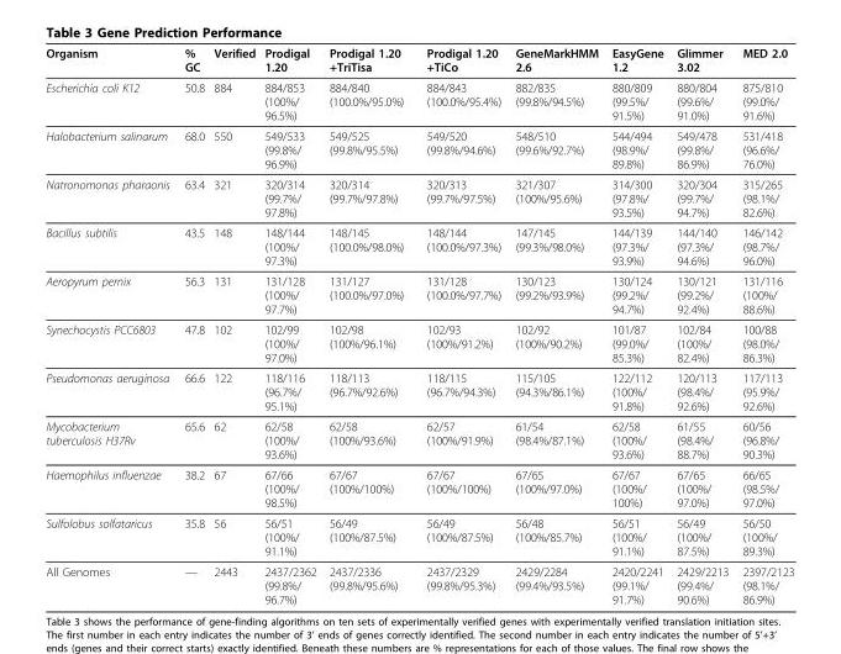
<table><thead><tr><td>Organism</td><td>% GC</td><td>Verified</td><td>Prodigal 1.20</td><td>Prodigal 1.20 +TriTisa</td><td>Prodigal 1.20 +TiCo</td><td>GeneMarkHMM 2.6</td><td>EasyGene 1.2</td><td>Glimmer 3.02</td><td>MED 2.0</td></tr></thead><tbody><tr><td>Escherichia coli K12</td><td>50.8</td><td>884</td><td>884/853 (100%/ 96.5%)</td><td>884/840 (100.0%/95.0%)</td><td>884/843 (100.0%/95.4%)</td><td>882/835 (99.8%/94.5%)</td><td>880/809 (99.5%/ 91.5%)</td><td>880/804 (99.6%/ 91.0%)</td><td>875/810 (99.0%/ 91.6%)</td></tr><tr><td>Halobacterium salinarum</td><td>68.0</td><td>550</td><td>549/533 (99.8%/ 96.9%)</td><td>549/525 (99.8%/95.5%)</td><td>549/520 (99.8%/94.6%)</td><td>548/510 (99.6%/92.7%)</td><td>544/494 (98.9%/ 89.8%)</td><td>549/478 (99.8%/ 86.9%)</td><td>531/418 (96.6%/ 76.0%)</td></tr><tr><td>Natronomonas pharaonis</td><td>63.4</td><td>321</td><td>320/314 (99.7%/ 97.8%)</td><td>320/314 (99.7%/97.8%)</td><td>320/313 (99.7%/97.5%)</td><td>321/307 (100%/95.6%)</td><td>314/300 (97.8%/ 93.5%)</td><td>320/304 (99.7%/ 94.7%)</td><td>315/265 (98.1%/ 82.6%)</td></tr><tr><td>Bacillus subtilis</td><td>43.5</td><td>148</td><td>148/144 (100%/ 97.3%)</td><td>148/145 (100.0%/98.0%)</td><td>148/144 (100.0%/97.3%)</td><td>147/145 (99.3%/98.0%)</td><td>144/139 (97.3%/ 93.9%)</td><td>144/140 (97.3%/ 94.6%)</td><td>146/142 (98.7%/ 96.0%)</td></tr><tr><td>Aeropyrum pernix</td><td>56.3</td><td>131</td><td>131/128 (100%/ 97.7%)</td><td>131/127 (100.0%/97.0%)</td><td>131/128 (100.0%/97.7%)</td><td>130/123 (99.2%/93.9%)</td><td>130/124 (99.2%/ 94.7%)</td><td>130/121 (99.2%/ 92.4%)</td><td>131/116 (100%/ 88.6%)</td></tr><tr><td>Synechocystis PCC6803</td><td>47.8</td><td>102</td><td>102/99 (100%/ 97.0%)</td><td>102/98 (100%/96.1%)</td><td>102/93 (100%/91.2%)</td><td>102/92 (100%/90.2%)</td><td>101/87 (99.0%/ 85.3%)</td><td>102/84 (100%/ 82.4%)</td><td>100/88 (98.0%/ 86.3%)</td></tr><tr><td>Pseudomonas aeruginosa</td><td>66.6</td><td>122</td><td>118/116 (96.7%/ 95.1%)</td><td>118/113 (96.7%/92.6%)</td><td>118/115 (96.7%/94.3%)</td><td>115/105 (94.3%/86.1%)</td><td>122/112 (100%/ 91.8%)</td><td>120/113 (98.4%/ 92.6%)</td><td>117/113 (95.9%/ 92.6%)</td></tr><tr><td>Mycobacterium tuberculosis H37Rv</td><td>65.6</td><td>62</td><td>62/58 (100%/ 93.6%)</td><td>62/58 (100%/93.6%)</td><td>62/57 (100%/91.9%)</td><td>61/54 (98.4%/87.1%)</td><td>62/58 (100%/ 93.6%)</td><td>61/55 (98.4%/ 88.7%)</td><td>60/56 (96.8%/ 90.3%)</td></tr><tr><td>Haemophilus influenzae</td><td>38.2</td><td>67</td><td>67/66 (100%/ 98.5%)</td><td>67/67 (100%/100%)</td><td>67/67 (100%/100%)</td><td>67/65 (100%/97.0%)</td><td>67/67 (100%/ 100%)</td><td>67/65 (100%/ 97.0%)</td><td>66/65 (98.5%/ 97.0%)</td></tr><tr><td>Sulfolobus solfataricus</td><td>35.8</td><td>56</td><td>56/51 (100%/ 91.1%)</td><td>56/49 (100%/87.5%)</td><td>56/49 (100%/87.5%)</td><td>56/48 (100%/85.7%)</td><td>56/51 (100%/ 91.1%)</td><td>56/49 (100%/ 87.5%)</td><td>56/50 (100%/ 89.3%)</td></tr><tr><td>All Genomes</td><td>—</td><td>2443</td><td>2437/2362 (99.8%/ 96.7%)</td><td>2437/2336 (99.8%/95.6%)</td><td>2437/2329 (99.8%/95.3%)</td><td>2429/2284 (99.4%/93.5%)</td><td>2420/2241 (99.1%/ 91.7%)</td><td>2429/2213 (99.4%/ 90.6%)</td><td>2397/2123 (98.1%/ 86.9%)</td></tr></tbody></table>